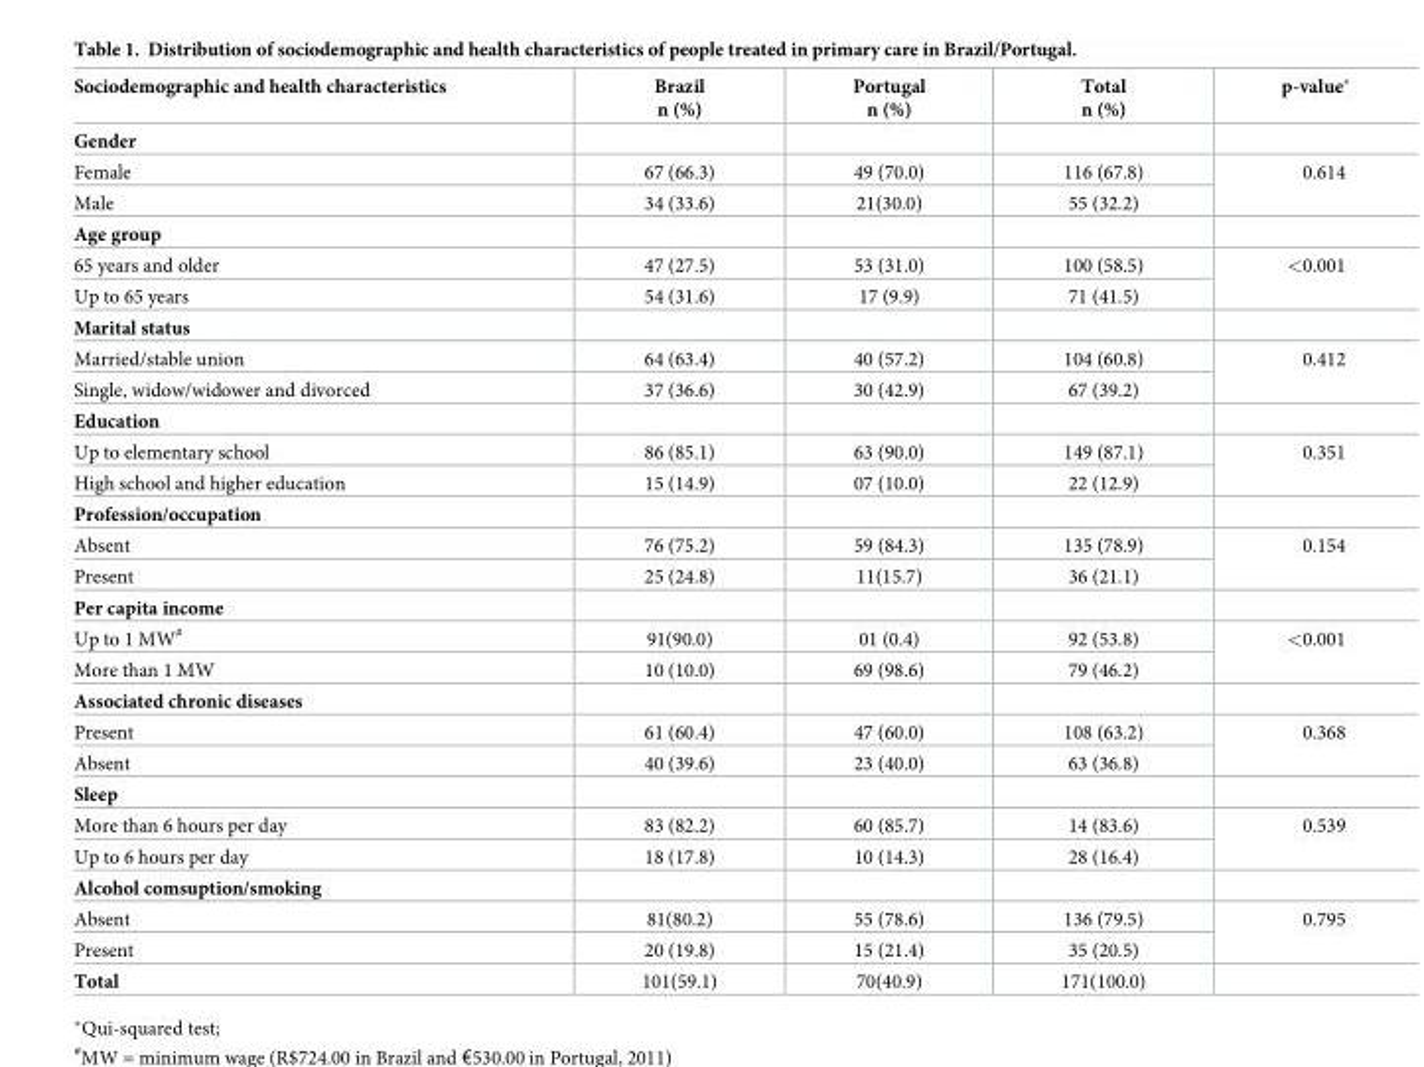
<table><thead><tr><td>Sociodemographic and health characteristics</td><td>Brazil n (%)</td><td>Portugal n (%)</td><td>Total n (%)</td><td>p-value*</td></tr></thead><tbody><tr><td colspan="5">Gender</td></tr><tr><td>Female</td><td>67 (66.3)</td><td>49 (70.0)</td><td>116 (67.8)</td><td rowspan="2">0.614</td></tr><tr><td>Male</td><td>34 (33.6)</td><td>21(30.0)</td><td>55 (32.2)</td></tr><tr><td colspan="5">Age group</td></tr><tr><td>65 years and older</td><td>47 (27.5)</td><td>53 (31.0)</td><td>100 (58.5)</td><td rowspan="2">&lt;0.001</td></tr><tr><td>Up to 65 years</td><td>54 (31.6)</td><td>17 (9.9)</td><td>71 (41.5)</td></tr><tr><td colspan="5">Marital status</td></tr><tr><td>Married/stable union</td><td>64 (63.4)</td><td>40 (57.2)</td><td>104 (60.8)</td><td rowspan="2">0.412</td></tr><tr><td>Single, widow/widower and divorced</td><td>37 (36.6)</td><td>30 (42.9)</td><td>67 (39.2)</td></tr><tr><td colspan="5">Education</td></tr><tr><td>Up to elementary school</td><td>86 (85.1)</td><td>63 (90.0)</td><td>149 (87.1)</td><td rowspan="2">0.351</td></tr><tr><td>High school and higher education</td><td>15 (14.9)</td><td>07 (10.0)</td><td>22 (12.9)</td></tr><tr><td colspan="5">Profession/occupation</td></tr><tr><td>Absent</td><td>76 (75.2)</td><td>59 (84.3)</td><td>135 (78.9)</td><td rowspan="2">0.154</td></tr><tr><td>Present</td><td>25 (24.8)</td><td>11(15.7)</td><td>36 (21.1)</td></tr><tr><td colspan="5">Per capita income</td></tr><tr><td>Up to 1 MW<sup>#</sup></td><td>91(90.0)</td><td>01 (0.4)</td><td>92 (53.8)</td><td rowspan="2">&lt;0.001</td></tr><tr><td>More than 1 MW</td><td>10 (10.0)</td><td>69 (98.6)</td><td>79 (46.2)</td></tr><tr><td colspan="5">Associated chronic diseases</td></tr><tr><td>Present</td><td>61 (60.4)</td><td>47 (60.0)</td><td>108 (63.2)</td><td rowspan="2">0.368</td></tr><tr><td>Absent</td><td>40 (39.6)</td><td>23 (40.0)</td><td>63 (36.8)</td></tr><tr><td colspan="5">Sleep</td></tr><tr><td>More than 6 hours per day</td><td>83 (82.2)</td><td>60 (85.7)</td><td>14 (83.6)</td><td rowspan="2">0.539</td></tr><tr><td>Up to 6 hours per day</td><td>18 (17.8)</td><td>10 (14.3)</td><td>28 (16.4)</td></tr><tr><td colspan="5">Alcohol comsuption/smoking</td></tr><tr><td>Absent</td><td>81(80.2)</td><td>55 (78.6)</td><td>136 (79.5)</td><td rowspan="2">0.795</td></tr><tr><td>Present</td><td>20 (19.8)</td><td>15 (21.4)</td><td>35 (20.5)</td></tr><tr><td>Total</td><td>101(59.1)</td><td>70(40.9)</td><td>171(100.0)</td><td></td></tr></tbody></table>